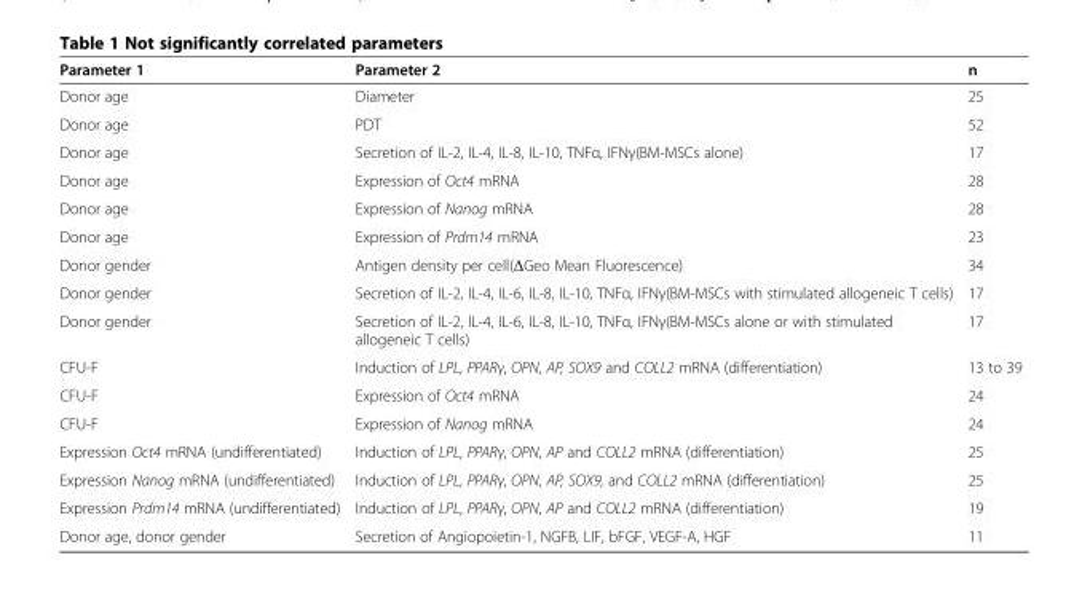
<table><thead><tr><td>Parameter 1</td><td>Parameter 2</td><td>n</td></tr></thead><tbody><tr><td>Donor age</td><td>Diameter</td><td>25</td></tr><tr><td>Donor age</td><td>PDT</td><td>52</td></tr><tr><td>Donor age</td><td>Secretion of IL-2, IL-4, IL-8, IL-10, TNFα, IFNγ(BM-MSCs alone)</td><td>17</td></tr><tr><td>Donor age</td><td>Expression of Oct4 mRNA</td><td>28</td></tr><tr><td>Donor age</td><td>Expression of Nanog mRNA</td><td>28</td></tr><tr><td>Donor age</td><td>Expression of Prdm14 mRNA</td><td>23</td></tr><tr><td>Donor gender</td><td>Antigen density per cell(ΔGeo Mean Fluorescence)</td><td>34</td></tr><tr><td>Donor gender</td><td>Secretion of IL-2, IL-4, IL-6, IL-8, IL-10, TNFα, IFNγ(BM-MSCs with stimulated allogeneic T cells)</td><td>17</td></tr><tr><td>Donor gender</td><td>Secretion of IL-2, IL-4, IL-6, IL-8, IL-10, TNFα, IFNγ(BM-MSCs alone or with stimulated allogeneic T cells)</td><td>17</td></tr><tr><td>CFU-F</td><td>Induction of LPL, PPARγ, OPN, AP, SOX9 and COLL2 mRNA (differentiation)</td><td>13 to 39</td></tr><tr><td>CFU-F</td><td>Expression of Oct4 mRNA</td><td>24</td></tr><tr><td>CFU-F</td><td>Expression of Nanog mRNA</td><td>24</td></tr><tr><td>Expression Oct4 mRNA (undifferentiated)</td><td>Induction of LPL, PPARγ, OPN, AP and COLL2 mRNA (differentiation)</td><td>25</td></tr><tr><td>Expression Nanog mRNA (undifferentiated)</td><td>Induction of LPL, PPARγ, OPN, AP, SOX9, and COLL2 mRNA (differentiation)</td><td>25</td></tr><tr><td>Expression Prdm14 mRNA (undifferentiated)</td><td>Induction of LPL, PPARγ, OPN, AP and COLL2 mRNA (differentiation)</td><td>19</td></tr><tr><td>Donor age, donor gender</td><td>Secretion of Angiopoietin-1, NGFB, LIF, bFGF, VEGF-A, HGF</td><td>11</td></tr></tbody></table>